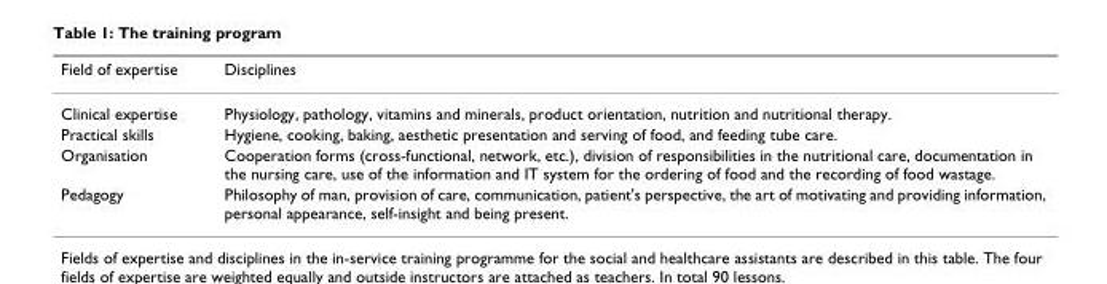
<table><thead><tr><td>Field of expertise</td><td>Disciplines</td></tr></thead><tbody><tr><td>Clinical expertise</td><td>Physiology, pathology, vitamins and minerals, product orientation, nutrition and nutritional therapy.</td></tr><tr><td>Practical skills</td><td>Hygiene, cooking, baking, aesthetic presentation and serving of food, and feeding tube care.</td></tr><tr><td>Organisation</td><td>Cooperation forms (cross-functional, network, etc.), division of responsibilities in the nutritional care, documentation in the nursing care, use of the information and IT system for the ordering of food and the recording of food wastage.</td></tr><tr><td>Pedagogy</td><td>Philosophy of man, provision of care, communication, patient&#x27;s perspective, the art of motivating and providing information, personal appearance, self-insight and being present.</td></tr></tbody></table>